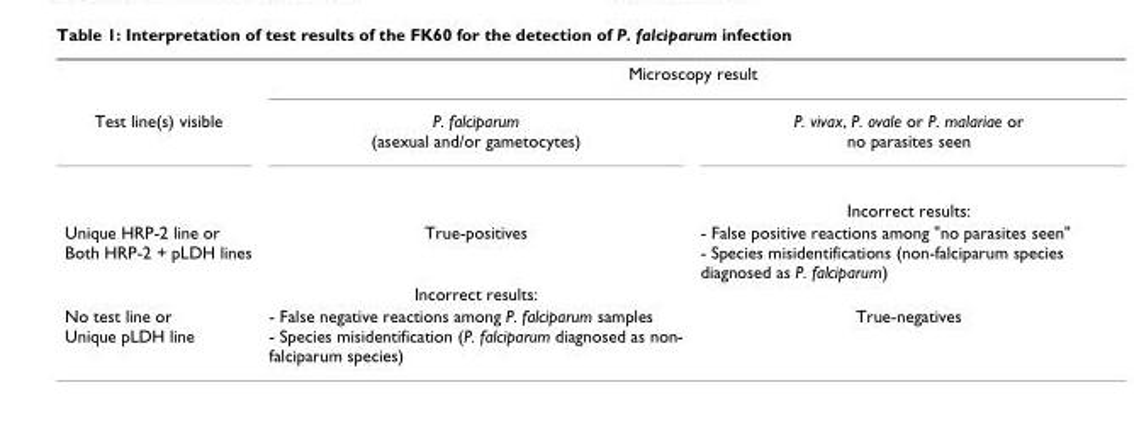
<table><thead><tr><td rowspan="2">Test line(s) visible</td><td colspan="2">Microscopy result</td></tr><tr><td>P. falciparum (asexual and/or gametocytes)</td><td>P. vivax, P. ovale or P. malariae or no parasites seen</td></tr></thead><tbody><tr><td></td><td></td><td>Incorrect results:</td></tr><tr><td rowspan="2">Unique HRP-2 line or Both HRP-2 + pLDH lines</td><td>True-positives</td><td>- False positive reactions among &quot;no parasites seen&quot; - Species misidentifications (non-falciparum species diagnosed as P. falciparum)</td></tr><tr><td>Incorrect results:</td><td></td></tr><tr><td>No test line or Unique pLDH line</td><td>- False negative reactions among P. falciparum samples - Species misidentification (P. falciparum diagnosed as non- falciparum species)</td><td>True-negatives</td></tr></tbody></table>